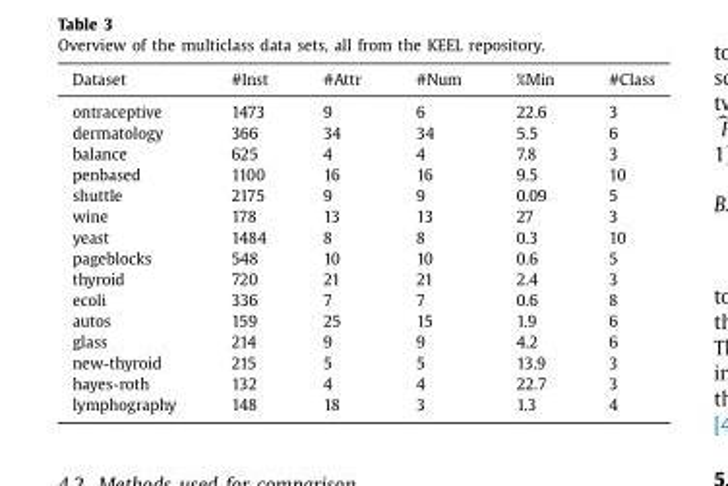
<table><thead><tr><td>Dataset</td><td>#Inst</td><td>#Attr</td><td>#Num</td><td>%Min</td><td>#Class</td></tr></thead><tbody><tr><td>ontraceptive</td><td>1473</td><td>9</td><td>6</td><td>22.6</td><td>3</td></tr><tr><td>dermatology</td><td>366</td><td>34</td><td>34</td><td>5.5</td><td>6</td></tr><tr><td>balance</td><td>625</td><td>4</td><td>4</td><td>7.8</td><td>3</td></tr><tr><td>penbased</td><td>1100</td><td>16</td><td>16</td><td>9.5</td><td>10</td></tr><tr><td>shuttle</td><td>2175</td><td>9</td><td>9</td><td>0.09</td><td>5</td></tr><tr><td>wine</td><td>178</td><td>13</td><td>13</td><td>27</td><td>3</td></tr><tr><td>yeast</td><td>1484</td><td>8</td><td>8</td><td>0.3</td><td>10</td></tr><tr><td>pageblocks</td><td>548</td><td>10</td><td>10</td><td>0.6</td><td>5</td></tr><tr><td>thyroid</td><td>720</td><td>21</td><td>21</td><td>2.4</td><td>3</td></tr><tr><td>ecoli</td><td>336</td><td>7</td><td>7</td><td>0.6</td><td>8</td></tr><tr><td>autos</td><td>159</td><td>25</td><td>15</td><td>1.9</td><td>6</td></tr><tr><td>glass</td><td>214</td><td>9</td><td>9</td><td>4.2</td><td>6</td></tr><tr><td>new-thyroid</td><td>215</td><td>5</td><td>5</td><td>13.9</td><td>3</td></tr><tr><td>hayes-roth</td><td>132</td><td>4</td><td>4</td><td>22.7</td><td>3</td></tr><tr><td>lymphography</td><td>148</td><td>18</td><td>3</td><td>1.3</td><td>4</td></tr></tbody></table>